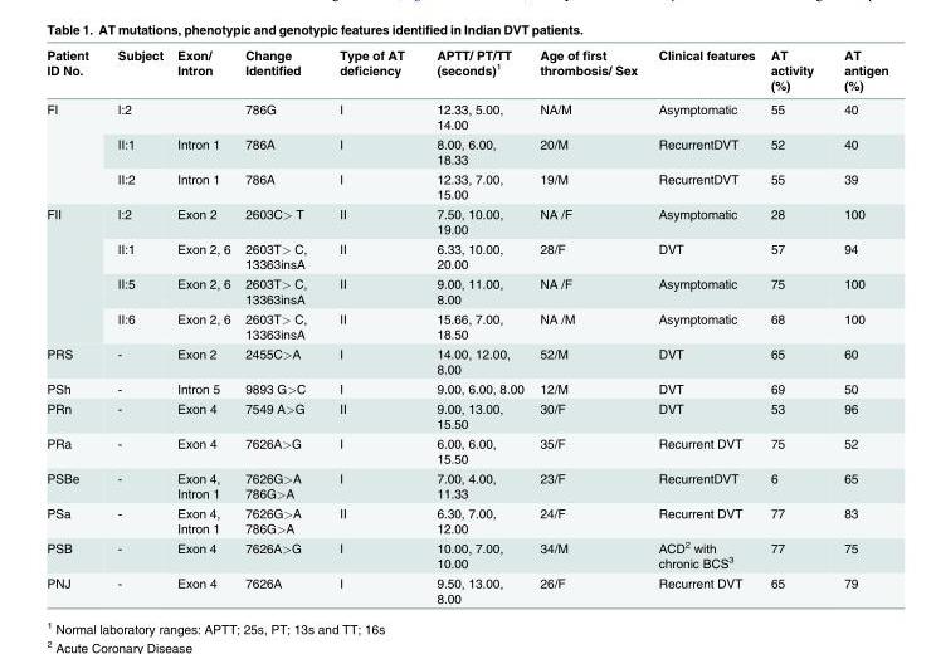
<table><thead><tr><td>Patient ID No.</td><td>Subject</td><td>Exon/ Intron</td><td>Change Identified</td><td>Type of AT deficiency</td><td>APTT/ PT/TT (seconds)<sup>1</sup></td><td>Age of first thrombosis/ Sex</td><td>Clinical features</td><td>AT activity (%)</td><td>AT antigen (%)</td></tr></thead><tbody><tr><td rowspan="3">FI</td><td>I:2</td><td></td><td>786G</td><td>I</td><td>12.33, 5.00, 14.00</td><td>NA/M</td><td>Asymptomatic</td><td>55</td><td>40</td></tr><tr><td>II:1</td><td>Intron 1</td><td>786A</td><td>I</td><td>8.00, 6.00, 18.33</td><td>20/M</td><td>RecurrentDVT</td><td>52</td><td>40</td></tr><tr><td>II:2</td><td>Intron 1</td><td>786A</td><td>I</td><td>12.33, 7.00, 15.00</td><td>19/M</td><td>RecurrentDVT</td><td>55</td><td>39</td></tr><tr><td rowspan="4">FII</td><td>I:2</td><td>Exon 2</td><td>2603C&gt; T</td><td>II</td><td>7.50, 10.00, 19.00</td><td>NA /F</td><td>Asymptomatic</td><td>28</td><td>100</td></tr><tr><td>II:1</td><td>Exon 2, 6</td><td>2603T&gt; C, 13363insA</td><td>II</td><td>6.33, 10.00, 20.00</td><td>28/F</td><td>DVT</td><td>57</td><td>94</td></tr><tr><td>II:5</td><td>Exon 2, 6</td><td>2603T&gt; C, 13363insA</td><td>II</td><td>9.00, 11.00, 8.00</td><td>NA /F</td><td>Asymptomatic</td><td>75</td><td>100</td></tr><tr><td>II:6</td><td>Exon 2, 6</td><td>2603T&gt; C, 13363insA</td><td>II</td><td>15.66, 7.00, 18.50</td><td>NA /M</td><td>Asymptomatic</td><td>68</td><td>100</td></tr><tr><td>PRS</td><td>-</td><td>Exon 2</td><td>2455C&gt;A</td><td>I</td><td>14.00, 12.00, 8.00</td><td>52/M</td><td>DVT</td><td>65</td><td>60</td></tr><tr><td>PSh</td><td>-</td><td>Intron 5</td><td>9893 G&gt;C</td><td>I</td><td>9.00, 6.00, 8.00</td><td>12/M</td><td>DVT</td><td>69</td><td>50</td></tr><tr><td>PRn</td><td>-</td><td>Exon 4</td><td>7549 A&gt;G</td><td>II</td><td>9.00, 13.00, 15.50</td><td>30/F</td><td>DVT</td><td>53</td><td>96</td></tr><tr><td>PRa</td><td>-</td><td>Exon 4</td><td>7626A&gt;G</td><td>I</td><td>6.00, 6.00, 15.50</td><td>35/F</td><td>Recurrent DVT</td><td>75</td><td>52</td></tr><tr><td>PSBe</td><td>-</td><td>Exon 4, Intron 1</td><td>7626G&gt;A 786G&gt;A</td><td>I</td><td>7.00, 4.00, 11.33</td><td>23/F</td><td>RecurrentDVT</td><td>6</td><td>65</td></tr><tr><td>PSa</td><td>-</td><td>Exon 4, Intron 1</td><td>7626G&gt;A 786G&gt;A</td><td>II</td><td>6.30, 7.00, 12.00</td><td>24/F</td><td>Recurrent DVT</td><td>77</td><td>83</td></tr><tr><td>PSB</td><td>-</td><td>Exon 4</td><td>7626A&gt;G</td><td>I</td><td>10.00, 7.00, 10.00</td><td>34/M</td><td>ACD<sup>2</sup> with chronic BCS<sup>3</sup></td><td>77</td><td>75</td></tr><tr><td>PNJ</td><td>-</td><td>Exon 4</td><td>7626A</td><td>I</td><td>9.50, 13.00, 8.00</td><td>26/F</td><td>Recurrent DVT</td><td>65</td><td>79</td></tr></tbody></table>